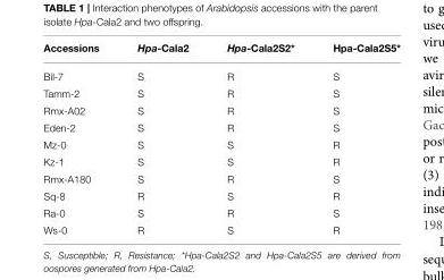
<table><thead><tr><td>Accessions</td><td>Hpa-Cala2</td><td>Hpa-Cala2S2*</td><td>Hpa-Cala2S5*</td></tr></thead><tbody><tr><td>Bil-7</td><td>S</td><td>R</td><td>S</td></tr><tr><td>Tamm-2</td><td>S</td><td>R</td><td>S</td></tr><tr><td>Rmx-A02</td><td>S</td><td>R</td><td>S</td></tr><tr><td>Eden-2</td><td>S</td><td>R</td><td>S</td></tr><tr><td>Mz-0</td><td>S</td><td>S</td><td>R</td></tr><tr><td>Kz-1</td><td>S</td><td>S</td><td>R</td></tr><tr><td>Rmx-A180</td><td>S</td><td>R</td><td>S</td></tr><tr><td>Sq-8</td><td>R</td><td>S</td><td>R</td></tr><tr><td>Ra-0</td><td>S</td><td>R</td><td>S</td></tr><tr><td>Ws-0</td><td>R</td><td>S</td><td>R</td></tr></tbody></table>